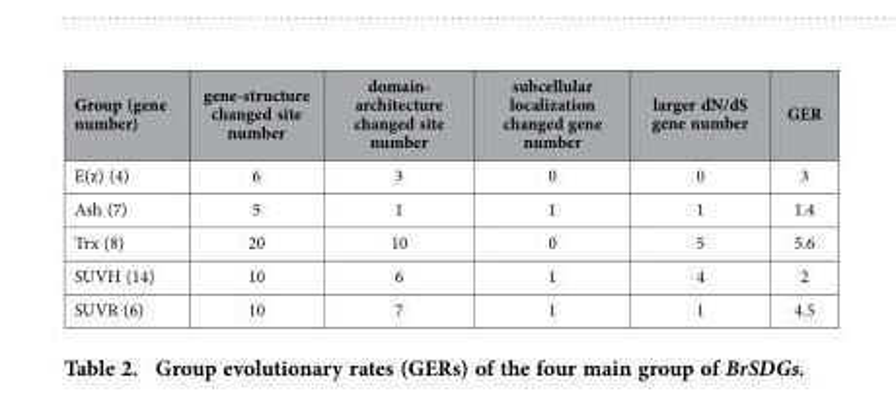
<table><thead><tr><td>Group (gene number)</td><td>gene-structure changed site number</td><td>domain- architecture changed site number</td><td>subcellular localization changed gene number</td><td>larger dN/dS gene number</td><td>GER</td></tr></thead><tbody><tr><td>E(z) (4)</td><td>6</td><td>3</td><td>0</td><td>0</td><td>3</td></tr><tr><td>Ash (7)</td><td>5</td><td>1</td><td>1</td><td>1</td><td>1.4</td></tr><tr><td>Trx (8)</td><td>20</td><td>10</td><td>0</td><td>5</td><td>5.6</td></tr><tr><td>SUVH (14)</td><td>10</td><td>6</td><td>1</td><td>4</td><td>2</td></tr><tr><td>SUVR (6)</td><td>10</td><td>7</td><td>1</td><td>1</td><td>4.5</td></tr></tbody></table>